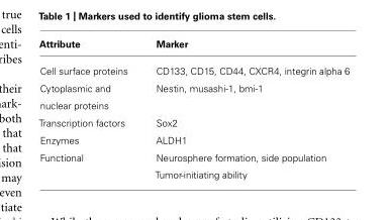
<table><thead><tr><td>Attribute</td><td>Marker</td></tr></thead><tbody><tr><td>Cell surface proteins</td><td>CD133, CD15, CD44, CXCR4, integrin alpha 6</td></tr><tr><td>Cytoplasmic and nuclear proteins</td><td>Nestin, musashi-1, bmi-1</td></tr><tr><td>Transcription factors</td><td>Sox2</td></tr><tr><td>Enzymes</td><td>ALDH1</td></tr><tr><td>Functional</td><td>Neurosphere formation, side population Tumor-initiating ability</td></tr></tbody></table>